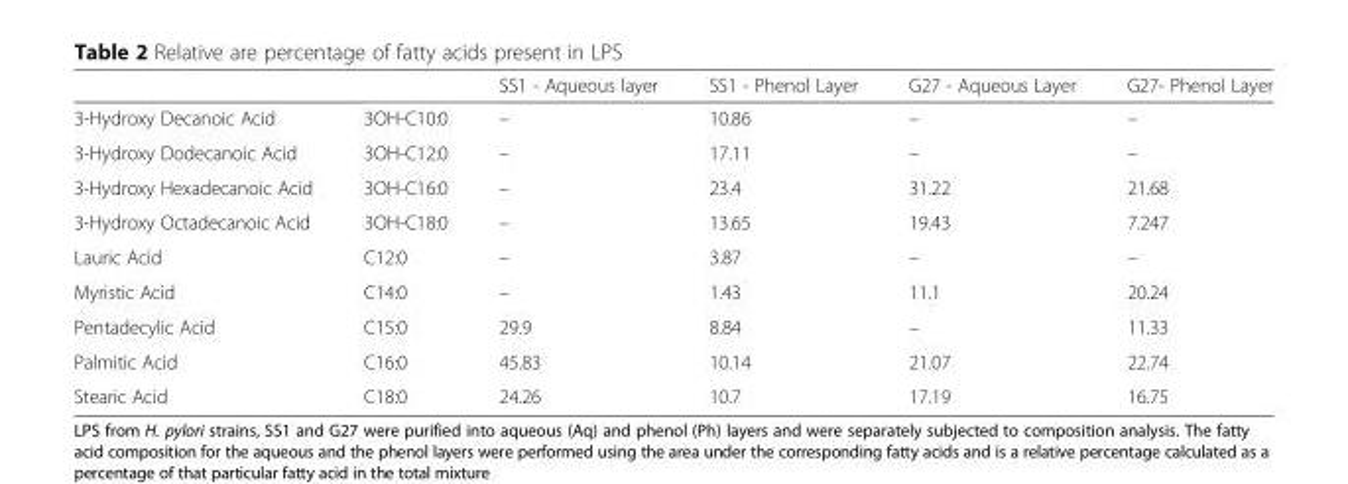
<table><thead><tr><td></td><td></td><td>SS1 - Aqueous layer</td><td>SS1 - Phenol Layer</td><td>G27 - Aqueous Layer</td><td>G27- Phenol Layer</td></tr></thead><tbody><tr><td>3-Hydroxy Decanoic Acid</td><td>3OH-C10:0</td><td>–</td><td>10.86</td><td>–</td><td>–</td></tr><tr><td>3-Hydroxy Dodecanoic Acid</td><td>3OH-C12:0</td><td>–</td><td>17.11</td><td>–</td><td>–</td></tr><tr><td>3-Hydroxy Hexadecanoic Acid</td><td>3OH-C16:0</td><td>–</td><td>23.4</td><td>31.22</td><td>21.68</td></tr><tr><td>3-Hydroxy Octadecanoic Acid</td><td>3OH-C18:0</td><td>–</td><td>13.65</td><td>19.43</td><td>7.247</td></tr><tr><td>Lauric Acid</td><td>C12:0</td><td>–</td><td>3.87</td><td>–</td><td>–</td></tr><tr><td>Myristic Acid</td><td>C14:0</td><td>–</td><td>1.43</td><td>11.1</td><td>20.24</td></tr><tr><td>Pentadecylic Acid</td><td>C15:0</td><td>29.9</td><td>8.84</td><td>–</td><td>11.33</td></tr><tr><td>Palmitic Acid</td><td>C16:0</td><td>45.83</td><td>10.14</td><td>21.07</td><td>22.74</td></tr><tr><td>Stearic Acid</td><td>C18:0</td><td>24.26</td><td>10.7</td><td>17.19</td><td>16.75</td></tr></tbody></table>